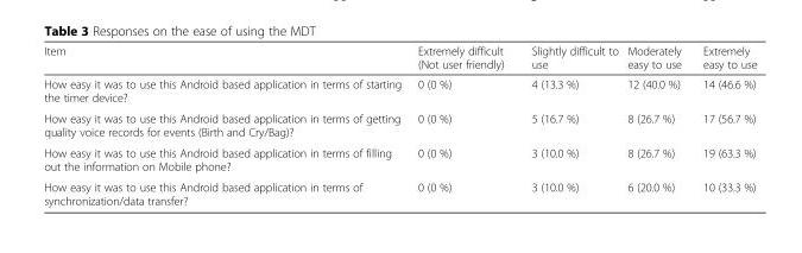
<table><thead><tr><td>Item</td><td>Extremely difficult (Not user friendly)</td><td>Slightly difficult to use</td><td>Moderately easy to use</td><td>Extremely easy to use</td></tr></thead><tbody><tr><td>How easy it was to use this Android based application in terms of starting the timer device?</td><td>0 (0 %)</td><td>4 (13.3 %)</td><td>12 (40.0 %)</td><td>14 (46.6 %)</td></tr><tr><td>How easy it was to use this Android based application in terms of getting quality voice records for events (Birth and Cry/Bag)?</td><td>0 (0 %)</td><td>5 (16.7 %)</td><td>8 (26.7 %)</td><td>17 (56.7 %)</td></tr><tr><td>How easy it was to use this Android based application in terms of filling out the information on Mobile phone?</td><td>0 (0 %)</td><td>3 (10.0 %)</td><td>8 (26.7 %)</td><td>19 (63.3 %)</td></tr><tr><td>How easy it was to use this Android based application in terms of synchronization/data transfer?</td><td>0 (0 %)</td><td>3 (10.0 %)</td><td>6 (20.0 %)</td><td>10 (33.3 %)</td></tr></tbody></table>